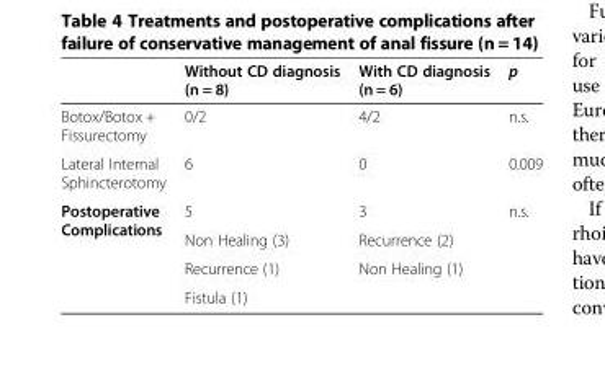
<table><thead><tr><td></td><td>Without CD diagnosis (n = 8)</td><td>With CD diagnosis (n = 6)</td><td>p</td></tr></thead><tbody><tr><td>Botox/Botox + Fissurectomy</td><td>0/2</td><td>4/2</td><td>n.s.</td></tr><tr><td>Lateral Internal Sphincterotomy</td><td>6</td><td>0</td><td>0.009</td></tr><tr><td rowspan="4">Postoperative Complications</td><td>5</td><td>3</td><td>n.s.</td></tr><tr><td>Non Healing (3)</td><td>Recurrence (2)</td><td></td></tr><tr><td>Recurrence (1)</td><td>Non Healing (1)</td><td></td></tr><tr><td>Fistula (1)</td><td></td><td></td></tr></tbody></table>